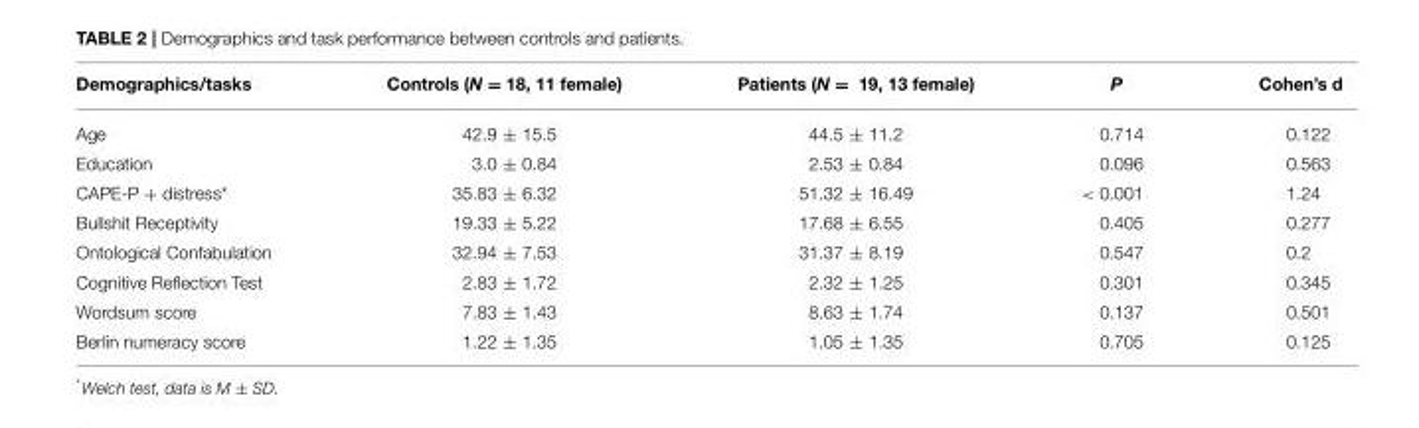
<table><thead><tr><td>Demographics/tasks</td><td>Controls (N = 18, 11 female)</td><td>Patients (N = 19, 13 female)</td><td>P</td><td>Cohen’s d</td></tr></thead><tbody><tr><td>Age</td><td>42.9 ± 15.5</td><td>44.5 ± 11.2</td><td>0.714</td><td>0.122</td></tr><tr><td>Education</td><td>3.0 ± 0.84</td><td>2.53 ± 0.84</td><td>0.096</td><td>0.563</td></tr><tr><td>CAPE-P + distress*</td><td>35.83 ± 6.32</td><td>51.32 ± 16.49</td><td>&lt; 0.001</td><td>1.24</td></tr><tr><td>Bullshit Receptivity</td><td>19.33 ± 5.22</td><td>17.68 ± 6.55</td><td>0.405</td><td>0.277</td></tr><tr><td>Ontological Confabulation</td><td>32.94 ± 7.53</td><td>31.37 ± 8.19</td><td>0.547</td><td>0.2</td></tr><tr><td>Cognitive Reflection Test</td><td>2.83 ± 1.72</td><td>2.32 ± 1.25</td><td>0.301</td><td>0.345</td></tr><tr><td>Wordsum score</td><td>7.83 ± 1.43</td><td>8.63 ± 1.74</td><td>0.137</td><td>0.501</td></tr><tr><td>Berlin numeracy score</td><td>1.22 ± 1.35</td><td>1.05 ± 1.35</td><td>0.705</td><td>0.125</td></tr></tbody></table>